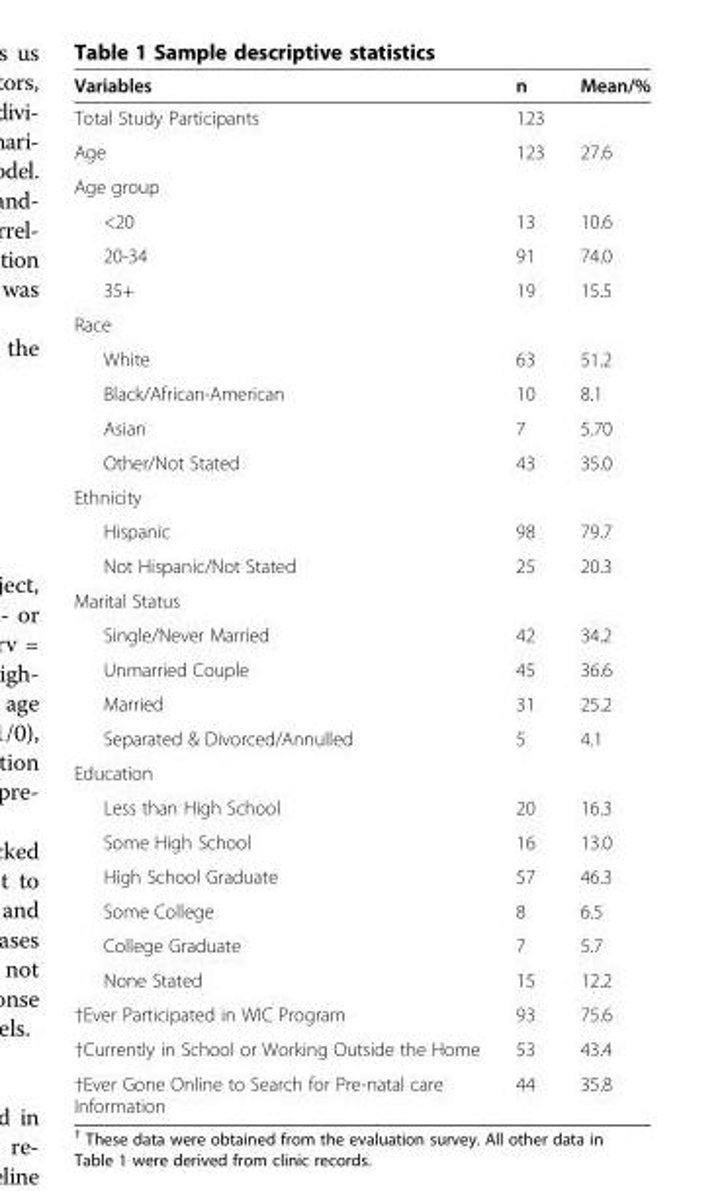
<table><thead><tr><td>Variables</td><td>n</td><td>Mean/%</td></tr></thead><tbody><tr><td>Total Study Participants</td><td>123</td><td></td></tr><tr><td>Age</td><td>123</td><td>27.6</td></tr><tr><td colspan="3">Age group</td></tr><tr><td>&lt;20</td><td>13</td><td>10.6</td></tr><tr><td>20-34</td><td>91</td><td>74.0</td></tr><tr><td>35+</td><td>19</td><td>15.5</td></tr><tr><td colspan="3">Race</td></tr><tr><td>White</td><td>63</td><td>51.2</td></tr><tr><td>Black/African-American</td><td>10</td><td>8.1</td></tr><tr><td>Asian</td><td>7</td><td>5.70</td></tr><tr><td>Other/Not Stated</td><td>43</td><td>35.0</td></tr><tr><td colspan="3">Ethnicity</td></tr><tr><td>Hispanic</td><td>98</td><td>79.7</td></tr><tr><td>Not Hispanic/Not Stated</td><td>25</td><td>20.3</td></tr><tr><td colspan="3">Marital Status</td></tr><tr><td>Single/Never Married</td><td>42</td><td>34.2</td></tr><tr><td>Unmarried Couple</td><td>45</td><td>36.6</td></tr><tr><td>Married</td><td>31</td><td>25.2</td></tr><tr><td>Separated &amp; Divorced/Annulled</td><td>5</td><td>4.1</td></tr><tr><td colspan="3">Education</td></tr><tr><td>Less than High School</td><td>20</td><td>16.3</td></tr><tr><td>Some High School</td><td>16</td><td>13.0</td></tr><tr><td>High School Graduate</td><td>57</td><td>46.3</td></tr><tr><td>Some College</td><td>8</td><td>6.5</td></tr><tr><td>College Graduate</td><td>7</td><td>5.7</td></tr><tr><td>None Stated</td><td>15</td><td>12.2</td></tr><tr><td>†Ever Participated in WIC Program</td><td>93</td><td>75.6</td></tr><tr><td>†Currently in School or Working Outside the Home</td><td>53</td><td>43.4</td></tr><tr><td>†Ever Gone Online to Search for Pre-natal care Information</td><td>44</td><td>35.8</td></tr></tbody></table>